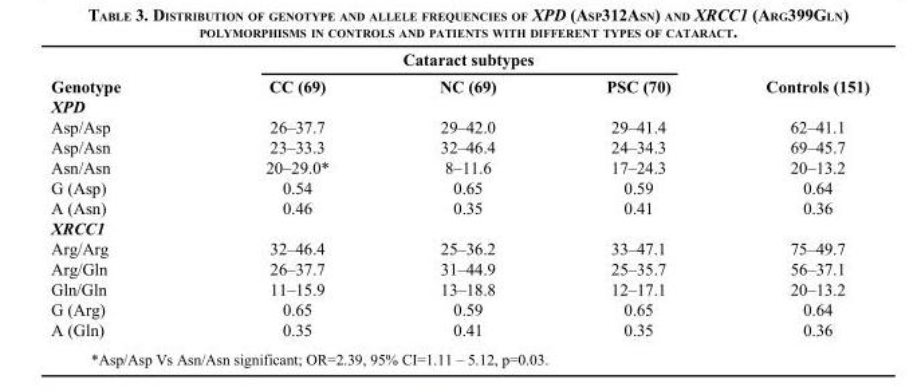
<table><thead><tr><td rowspan="2">Genotype</td><td colspan="4">Cataract subtypes</td></tr><tr><td>CC (69)</td><td>NC (69)</td><td>PSC (70)</td><td>Controls (151)</td></tr></thead><tbody><tr><td colspan="5">XPD</td></tr><tr><td>Asp/Asp</td><td>26–37.7</td><td>29–42.0</td><td>29–41.4</td><td>62–41.1</td></tr><tr><td>Asp/Asn</td><td>23–33.3</td><td>32–46.4</td><td>24–34.3</td><td>69–45.7</td></tr><tr><td>Asn/Asn</td><td>20–29.0*</td><td>8–11.6</td><td>17–24.3</td><td>20–13.2</td></tr><tr><td>G (Asp)</td><td>0.54</td><td>0.65</td><td>0.59</td><td>0.64</td></tr><tr><td>A (Asn)</td><td>0.46</td><td>0.35</td><td>0.41</td><td>0.36</td></tr><tr><td colspan="5">XRCC1</td></tr><tr><td>Arg/Arg</td><td>32–46.4</td><td>25–36.2</td><td>33–47.1</td><td>75–49.7</td></tr><tr><td>Arg/Gln</td><td>26–37.7</td><td>31–44.9</td><td>25–35.7</td><td>56–37.1</td></tr><tr><td>Gln/Gln</td><td>11–15.9</td><td>13–18.8</td><td>12–17.1</td><td>20–13.2</td></tr><tr><td>G (Arg)</td><td>0.65</td><td>0.59</td><td>0.65</td><td>0.64</td></tr><tr><td>A (Gln)</td><td>0.35</td><td>0.41</td><td>0.35</td><td>0.36</td></tr></tbody></table>